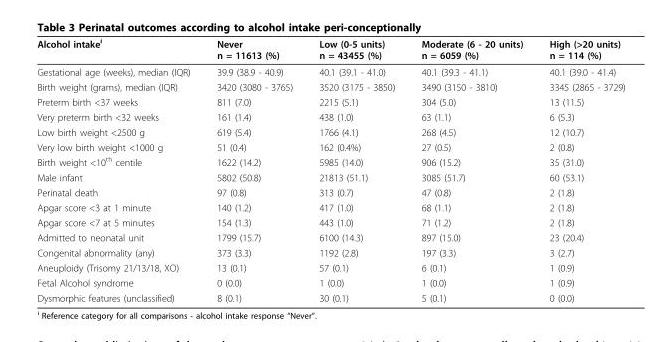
<table><thead><tr><td>Alcohol intake<sup>i</sup></td><td>Never n = 11613 (%)</td><td>Low (0-5 units) n = 43455 (%)</td><td>Moderate (6 - 20 units) n = 6059 (%)</td><td>High (&gt;20 units) n = 114 (%)</td></tr></thead><tbody><tr><td>Gestational age (weeks), median (IQR)</td><td>39.9 (38.9 - 40.9)</td><td>40.1 (39.1 - 41.0)</td><td>40.1 (39.3 - 41.1)</td><td>40.1 (39.0 - 41.4)</td></tr><tr><td>Birth weight (grams), median (IQR)</td><td>3420 (3080 - 3765)</td><td>3520 (3175 - 3850)</td><td>3490 (3150 - 3810)</td><td>3345 (2865 - 3729)</td></tr><tr><td>Preterm birth &lt;37 weeks</td><td>811 (7.0)</td><td>2215 (5.1)</td><td>304 (5.0)</td><td>13 (11.5)</td></tr><tr><td>Very preterm birth &lt;32 weeks</td><td>161 (1.4)</td><td>438 (1.0)</td><td>63 (1.1)</td><td>6 (5.3)</td></tr><tr><td>Low birth weight &lt;2500 g</td><td>619 (5.4)</td><td>1766 (4.1)</td><td>268 (4.5)</td><td>12 (10.7)</td></tr><tr><td>Very low birth weight &lt;1000 g</td><td>51 (0.4)</td><td>162 (0.4%)</td><td>27 (0.5)</td><td>2 (0.8)</td></tr><tr><td>Birth weight &lt;10<sup>th</sup> centile</td><td>1622 (14.2)</td><td>5985 (14.0)</td><td>906 (15.2)</td><td>35 (31.0)</td></tr><tr><td>Male infant</td><td>5802 (50.8)</td><td>21813 (51.1)</td><td>3085 (51.7)</td><td>60 (53.1)</td></tr><tr><td>Perinatal death</td><td>97 (0.8)</td><td>313 (0.7)</td><td>47 (0.8)</td><td>2 (1.8)</td></tr><tr><td>Apgar score &lt;3 at 1 minute</td><td>140 (1.2)</td><td>417 (1.0)</td><td>68 (1.1)</td><td>2 (1.8)</td></tr><tr><td>Apgar score &lt;7 at 5 minutes</td><td>154 (1.3)</td><td>443 (1.0)</td><td>71 (1.2)</td><td>2 (1.8)</td></tr><tr><td>Admitted to neonatal unit</td><td>1799 (15.7)</td><td>6100 (14.3)</td><td>897 (15.0)</td><td>23 (20.4)</td></tr><tr><td>Congenital abnormality (any)</td><td>373 (3.3)</td><td>1192 (2.8)</td><td>197 (3.3)</td><td>3 (2.7)</td></tr><tr><td>Aneuploidy (Trisomy 21/13/18, XO)</td><td>13 (0.1)</td><td>57 (0.1)</td><td>6 (0.1)</td><td>1 (0.9)</td></tr><tr><td>Fetal Alcohol syndrome</td><td>0 (0.0)</td><td>1 (0.0)</td><td>1 (0.0)</td><td>1 (0.9)</td></tr><tr><td>Dysmorphic features (unclassified)</td><td>8 (0.1)</td><td>30 (0.1)</td><td>5 (0.1)</td><td>0 (0.0)</td></tr></tbody></table>